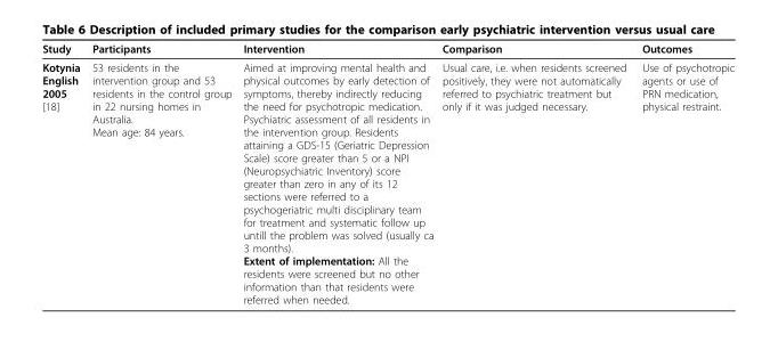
<table><thead><tr><td>Study</td><td>Participants</td><td>Intervention</td><td>Comparison</td><td>Outcomes</td></tr></thead><tbody><tr><td>Kotynia English 2005 [18]</td><td>53 residents in the intervention group and 53 residents in the control group in 22 nursing homes in Australia. Mean age: 84 years.</td><td>Aimed at improving mental health and physical outcomes by early detection of symptoms, thereby indirectly reducing the need for psychotropic medication. Psychiatric assessment of all residents in the intervention group. Residents attaining a GDS-15 (Geriatric Depression Scale) score greater than 5 or a NPI (Neuropsychiatric Inventory) score greater than zero in any of its 12 sections were referred to a psychogeriatric multi disciplinary team for treatment and systematic follow up untill the problem was solved (usually ca 3 months). Extent of implementation: All the residents were screened but no other information than that residents were referred when needed.</td><td>Usual care, i.e. when residents screened positively, they were not automatically referred to psychiatric treatment but only if it was judged necessary.</td><td>Use of psychotropic agents or use of PRN medication, physical restraint.</td></tr></tbody></table>